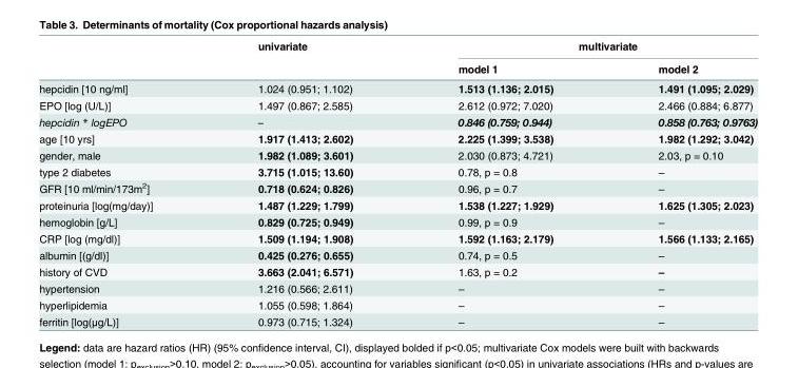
<table><thead><tr><td rowspan="2"></td><td rowspan="2">univariate</td><td colspan="2">multivariate</td></tr><tr><td>model 1</td><td>model 2</td></tr></thead><tbody><tr><td>hepcidin [10 ng/ml]</td><td>1.024 (0.951; 1.102)</td><td>1.513 (1.136; 2.015)</td><td>1.491 (1.095; 2.029)</td></tr><tr><td>EPO [log (U/L)]</td><td>1.497 (0.867; 2.585)</td><td>2.612 (0.972; 7.020)</td><td>2.466 (0.884; 6.877)</td></tr><tr><td>hepcidin * logEPO</td><td>–</td><td>0.846 (0.759; 0.944)</td><td>0.858 (0.763; 0.9763)</td></tr><tr><td>age [10 yrs]</td><td>1.917 (1.413; 2.602)</td><td>2.225 (1.399; 3.538)</td><td>1.982 (1.292; 3.042)</td></tr><tr><td>gender, male</td><td>1.982 (1.089; 3.601)</td><td>2.030 (0.873; 4.721)</td><td>2.03, p = 0.10</td></tr><tr><td>type 2 diabetes</td><td>3.715 (1.015; 13.60)</td><td>0.78, p = 0.8</td><td>–</td></tr><tr><td>GFR [10 ml/min/173m<sup>2</sup>]</td><td>0.718 (0.624; 0.826)</td><td>0.96, p = 0.7</td><td>–</td></tr><tr><td>proteinuria [log(mg/day)]</td><td>1.487 (1.229; 1.799)</td><td>1.538 (1.227; 1.929)</td><td>1.625 (1.305; 2.023)</td></tr><tr><td>hemoglobin [g/L]</td><td>0.829 (0.725; 0.949)</td><td>0.99, p = 0.9</td><td>–</td></tr><tr><td>CRP [log (mg/dl)]</td><td>1.509 (1.194; 1.908)</td><td>1.592 (1.163; 2.179)</td><td>1.566 (1.133; 2.165)</td></tr><tr><td>albumin [(g/dl)]</td><td>0.425 (0.276; 0.655)</td><td>0.74, p = 0.5</td><td>–</td></tr><tr><td>history of CVD</td><td>3.663 (2.041; 6.571)</td><td>1.63, p = 0.2</td><td>–</td></tr><tr><td>hypertension</td><td>1.216 (0.566; 2.611)</td><td>–</td><td>–</td></tr><tr><td>hyperlipidemia</td><td>1.055 (0.598; 1.864)</td><td>–</td><td>–</td></tr><tr><td>ferritin [log(μg/L)]</td><td>0.973 (0.715; 1.324)</td><td>–</td><td>–</td></tr></tbody></table>